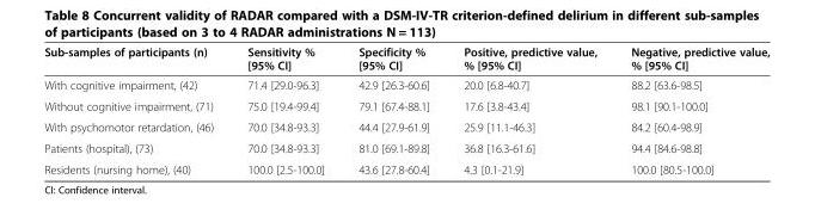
<table><thead><tr><td>Sub-samples of participants (n)</td><td>Sensitivity % [95% CI]</td><td>Specificity % [95% CI]</td><td>Positive, predictive value, % [95% CI]</td><td>Negative, predictive value, % [95% CI]</td></tr></thead><tbody><tr><td>With cognitive impairment, (42)</td><td>71.4 [29.0-96.3]</td><td>42.9 [26.3-60.6]</td><td>20.0 [6.8-40.7]</td><td>88.2 [63.6-98.5]</td></tr><tr><td>Without cognitive impairment, (71)</td><td>75.0 [19.4-99.4]</td><td>79.1 [67.4-88.1]</td><td>17.6 [3.8-43.4]</td><td>98.1 [90.1-100.0]</td></tr><tr><td>With psychomotor retardation, (46)</td><td>70.0 [34.8-93.3]</td><td>44.4 [27.9-61.9]</td><td>25.9 [11.1-46.3]</td><td>84.2 [60.4-98.9]</td></tr><tr><td>Patients (hospital), (73)</td><td>70.0 [34.8-93.3]</td><td>81.0 [69.1-89.8]</td><td>36.8 [16.3-61.6]</td><td>94.4 [84.6-98.8]</td></tr><tr><td>Residents (nursing home), (40)</td><td>100.0 [2.5-100.0]</td><td>43.6 [27.8-60.4]</td><td>4.3 [0.1-21.9]</td><td>100.0 [80.5-100.0]</td></tr></tbody></table>